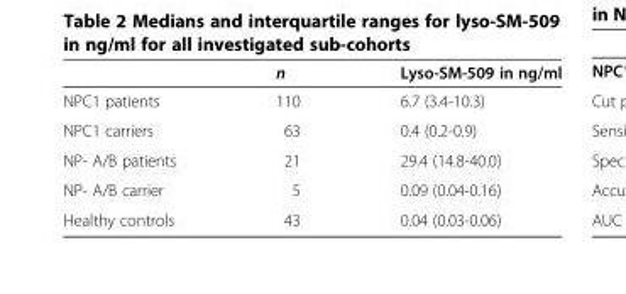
<table><thead><tr><td></td><td>n</td><td>Lyso-SM-509 in ng/ml</td></tr></thead><tbody><tr><td>NPC1 patients</td><td>110</td><td>6.7 (3.4-10.3)</td></tr><tr><td>NPC1 carriers</td><td>63</td><td>0.4 (0.2-0.9)</td></tr><tr><td>NP- A/B patients</td><td>21</td><td>29.4 (14.8-40.0)</td></tr><tr><td>NP- A/B carrier</td><td>5</td><td>0.09 (0.04-0.16)</td></tr><tr><td>Healthy controls</td><td>43</td><td>0.04 (0.03-0.06)</td></tr></tbody></table>